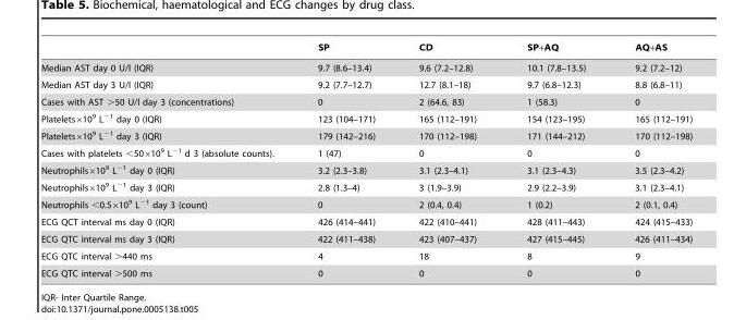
<table><thead><tr><td></td><td>SP</td><td>CD</td><td>SP+AQ</td><td>AQ+AS</td></tr></thead><tbody><tr><td>Median AST day 0 U/l (IQR)</td><td>9.7 (8.6–13.4)</td><td>9.6 (7.2–12.8)</td><td>10.1 (7.8–13.5)</td><td>9.2 (7.2–12)</td></tr><tr><td>Median AST day 3 U/l (IQR)</td><td>9.2 (7.7–12.7)</td><td>12.7 (8.1–18)</td><td>9.7 (6.8–12.3)</td><td>8.8 (6.8–11)</td></tr><tr><td>Cases with AST &gt;50 U/l day 3 (concentrations)</td><td>0</td><td>2 (64.6, 83)</td><td>1 (58.3)</td><td>0</td></tr><tr><td>Platelets×10<sup>9</sup> L<sup>−1</sup> day 0 (IQR)</td><td>123 (104–171)</td><td>165 (112–191)</td><td>154 (123–195)</td><td>165 (112–191)</td></tr><tr><td>Platelets×10<sup>9</sup> L<sup>−1</sup> day 3 (IQR)</td><td>179 (142–216)</td><td>170 (112–198)</td><td>171 (144–212)</td><td>170 (112–198)</td></tr><tr><td>Cases with platelets &lt;50×10<sup>9</sup> L<sup>−1</sup> d 3 (absolute counts).</td><td>1 (47)</td><td>0</td><td>0</td><td>0</td></tr><tr><td>Neutrophils×10<sup>9</sup> L<sup>−1</sup> day 0 (IQR)</td><td>3.2 (2.3–3.8)</td><td>3.1 (2.3–4.1)</td><td>3.1 (2.3–4.3)</td><td>3.5 (2.3–4.2)</td></tr><tr><td>Neutrophils×10<sup>9</sup> L<sup>−1</sup> day 3 (IQR)</td><td>2.8 (1.3–4)</td><td>3 (1.9–3.9)</td><td>2.9 (2.2–3.9)</td><td>3.1 (2.3–4.1)</td></tr><tr><td>Neutrophils &lt;0.5×10<sup>9</sup> L<sup>−1</sup> day 3 (count)</td><td>0</td><td>2 (0.4, 0.4)</td><td>1 (0.2)</td><td>2 (0.1, 0.4)</td></tr><tr><td>ECG QCT interval ms day 0 (IQR)</td><td>426 (414–441)</td><td>422 (410–441)</td><td>428 (411–443)</td><td>424 (415–433)</td></tr><tr><td>ECG QTC interval ms day 3 (IQR)</td><td>422 (411–438)</td><td>423 (407–437)</td><td>427 (415–445)</td><td>426 (411–434)</td></tr><tr><td>ECG QTC interval &gt;440 ms</td><td>4</td><td>18</td><td>8</td><td>9</td></tr><tr><td>ECG QTC interval &gt;500 ms</td><td>0</td><td>0</td><td>0</td><td>0</td></tr></tbody></table>